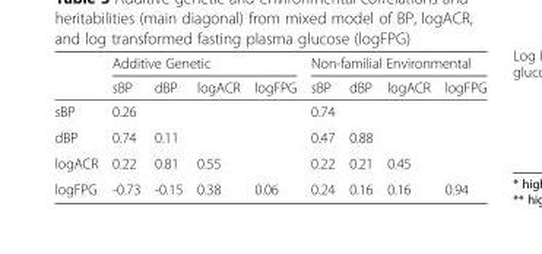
<table><thead><tr><td rowspan="2"></td><td colspan="4">Additive Genetic</td><td colspan="4">Non-familial Environmental</td></tr><tr><td>sBP</td><td>dBP</td><td>logACR</td><td>logFPG</td><td>sBP</td><td>dBP</td><td>logACR</td><td>logFPG</td></tr></thead><tbody><tr><td>sBP</td><td>0.26</td><td></td><td></td><td></td><td>0.74</td><td></td><td></td><td></td></tr><tr><td>dBP</td><td>0.74</td><td>0.11</td><td></td><td></td><td>0.47</td><td>0.88</td><td></td><td></td></tr><tr><td>logACR</td><td>0.22</td><td>0.81</td><td>0.55</td><td></td><td>0.22</td><td>0.21</td><td>0.45</td><td></td></tr><tr><td>logFPG</td><td>-0.73</td><td>-0.15</td><td>0.38</td><td>0.06</td><td>0.24</td><td>0.16</td><td>0.16</td><td>0.94</td></tr></tbody></table>